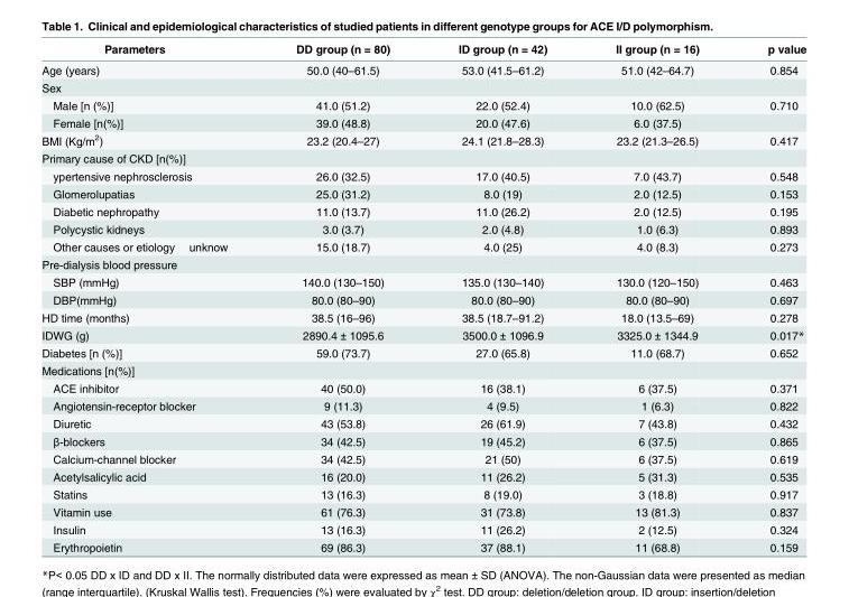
<table><thead><tr><td>Parameters</td><td>DD group (n = 80)</td><td>ID group (n = 42)</td><td>II group (n = 16)</td><td>p value</td></tr></thead><tbody><tr><td>Age (years)</td><td>50.0 (40–61.5)</td><td>53.0 (41.5–61.2)</td><td>51.0 (42–64.7)</td><td>0.854</td></tr><tr><td colspan="5">Sex</td></tr><tr><td>Male [n (%)]</td><td>41.0 (51.2)</td><td>22.0 (52.4)</td><td>10.0 (62.5)</td><td>0.710</td></tr><tr><td>Female [n(%)]</td><td>39.0 (48.8)</td><td>20.0 (47.6)</td><td>6.0 (37.5)</td><td></td></tr><tr><td>BMI (Kg/m<sup>2</sup>)</td><td>23.2 (20.4–27)</td><td>24.1 (21.8–28.3)</td><td>23.2 (21.3–26.5)</td><td>0.417</td></tr><tr><td colspan="5">Primary cause of CKD [n(%)]</td></tr><tr><td>ypertensive nephrosclerosis</td><td>26.0 (32.5)</td><td>17.0 (40.5)</td><td>7.0 (43.7)</td><td>0.548</td></tr><tr><td>Glomerolupatias</td><td>25.0 (31.2)</td><td>8.0 (19)</td><td>2.0 (12.5)</td><td>0.153</td></tr><tr><td>Diabetic nephropathy</td><td>11.0 (13.7)</td><td>11.0 (26.2)</td><td>2.0 (12.5)</td><td>0.195</td></tr><tr><td>Polycystic kidneys</td><td>3.0 (3.7)</td><td>2.0 (4.8)</td><td>1.0 (6.3)</td><td>0.893</td></tr><tr><td>Other causes or etiology unknow</td><td>15.0 (18.7)</td><td>4.0 (25)</td><td>4.0 (8.3)</td><td>0.273</td></tr><tr><td colspan="5">Pre-dialysis blood pressure</td></tr><tr><td>SBP (mmHg)</td><td>140.0 (130–150)</td><td>135.0 (130–140)</td><td>130.0 (120–150)</td><td>0.463</td></tr><tr><td>DBP(mmHg)</td><td>80.0 (80–90)</td><td>80.0 (80–90)</td><td>80.0 (80–90)</td><td>0.697</td></tr><tr><td>HD time (months)</td><td>38.5 (16–96)</td><td>38.5 (18.7–91.2)</td><td>18.0 (13.5–69)</td><td>0.278</td></tr><tr><td>IDWG (g)</td><td>2890.4 ± 1095.6</td><td>3500.0 ± 1096.9</td><td>3325.0 ± 1344.9</td><td>0.017*</td></tr><tr><td>Diabetes [n (%)]</td><td>59.0 (73.7)</td><td>27.0 (65.8)</td><td>11.0 (68.7)</td><td>0.652</td></tr><tr><td colspan="5">Medications [n(%)]</td></tr><tr><td>ACE inhibitor</td><td>40 (50.0)</td><td>16 (38.1)</td><td>6 (37.5)</td><td>0.371</td></tr><tr><td>Angiotensin-receptor blocker</td><td>9 (11.3)</td><td>4 (9.5)</td><td>1 (6.3)</td><td>0.822</td></tr><tr><td>Diuretic</td><td>43 (53.8)</td><td>26 (61.9)</td><td>7 (43.8)</td><td>0.432</td></tr><tr><td>β-blockers</td><td>34 (42.5)</td><td>19 (45.2)</td><td>6 (37.5)</td><td>0.865</td></tr><tr><td>Calcium-channel blocker</td><td>34 (42.5)</td><td>21 (50)</td><td>6 (37.5)</td><td>0.619</td></tr><tr><td>Acetylsalicylic acid</td><td>16 (20.0)</td><td>11 (26.2)</td><td>5 (31.3)</td><td>0.535</td></tr><tr><td>Statins</td><td>13 (16.3)</td><td>8 (19.0)</td><td>3 (18.8)</td><td>0.917</td></tr><tr><td>Vitamin use</td><td>61 (76.3)</td><td>31 (73.8)</td><td>13 (81.3)</td><td>0.837</td></tr><tr><td>Insulin</td><td>13 (16.3)</td><td>11 (26.2)</td><td>2 (12.5)</td><td>0.324</td></tr><tr><td>Erythropoietin</td><td>69 (86.3)</td><td>37 (88.1)</td><td>11 (68.8)</td><td>0.159</td></tr></tbody></table>